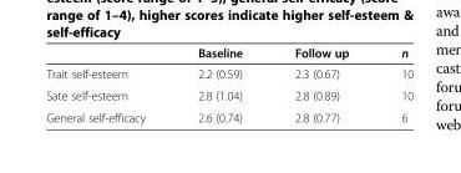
<table><thead><tr><td></td><td>Baseline</td><td>Follow up</td><td>n</td></tr></thead><tbody><tr><td>Trait self-esteem</td><td>2.2 (0.59)</td><td>2.3 (0.67)</td><td>10</td></tr><tr><td>Sate self-esteem</td><td>2.8 (1.04)</td><td>2.8 (0.89)</td><td>10</td></tr><tr><td>General self-efficacy</td><td>2.6 (0.74)</td><td>2.8 (0.77)</td><td>6</td></tr></tbody></table>